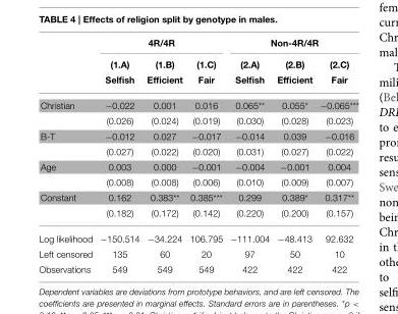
<table><thead><tr><td rowspan="3"></td><td colspan="3">4R/4R</td><td colspan="3">Non-4R/4R</td></tr><tr><td rowspan="2">(1.A) Selfish</td><td rowspan="2">(1.B) Efficient</td><td rowspan="2">(1.C) Fair</td><td rowspan="2">(2.A) Selfish</td><td rowspan="2">(2.B) Efficient</td><td rowspan="2">(2.C) Fair</td></tr><tr></tr></thead><tbody><tr><td rowspan="2">Christian</td><td>−0.022</td><td>0.001</td><td>0.016</td><td>0.065**</td><td>0.055*</td><td>−0.065***</td></tr><tr><td>(0.026)</td><td>(0.024)</td><td>(0.019)</td><td>(0.030)</td><td>(0.028)</td><td>(0.023)</td></tr><tr><td rowspan="2">B-T</td><td>−0.012</td><td>0.027</td><td>−0.017</td><td>−0.014</td><td>0.039</td><td>−0.016</td></tr><tr><td>(0.027)</td><td>(0.022)</td><td>(0.020)</td><td>(0.031)</td><td>(0.027)</td><td>(0.022)</td></tr><tr><td rowspan="2">Age</td><td>0.003</td><td>0.000</td><td>−0.001</td><td>−0.004</td><td>−0.001</td><td>0.004</td></tr><tr><td>(0.008)</td><td>(0.008)</td><td>(0.006)</td><td>(0.010)</td><td>(0.009)</td><td>(0.007)</td></tr><tr><td rowspan="2">Constant</td><td>0.162</td><td>0.383**</td><td>0.385***</td><td>0.299</td><td>0.389*</td><td>0.317**</td></tr><tr><td>(0.182)</td><td>(0.172)</td><td>(0.142)</td><td>(0.220)</td><td>(0.200)</td><td>(0.157)</td></tr><tr><td>Log likelihood</td><td>−150.514</td><td>−34.224</td><td>106.795</td><td>−111.004</td><td>−48.413</td><td>92.632</td></tr><tr><td>Left censored</td><td>135</td><td>60</td><td>20</td><td>97</td><td>50</td><td>10</td></tr><tr><td>Observations</td><td>549</td><td>549</td><td>549</td><td>422</td><td>422</td><td>422</td></tr></tbody></table>